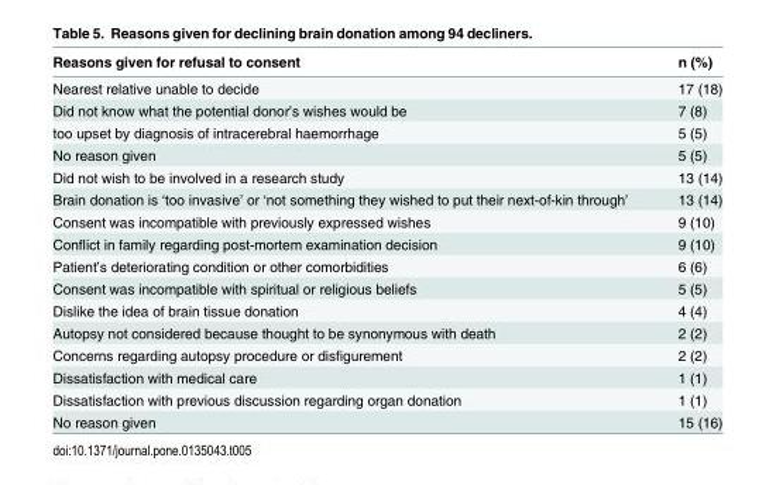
<table><thead><tr><td>Reasons given for refusal to consent</td><td>n (%)</td></tr></thead><tbody><tr><td>Nearest relative unable to decide</td><td>17 (18)</td></tr><tr><td>Did not know what the potential donor’s wishes would be</td><td>7 (8)</td></tr><tr><td>too upset by diagnosis of intracerebral haemorrhage</td><td>5 (5)</td></tr><tr><td>No reason given</td><td>5 (5)</td></tr><tr><td>Did not wish to be involved in a research study</td><td>13 (14)</td></tr><tr><td>Brain donation is ‘too invasive’ or ‘not something they wished to put their next-of-kin through’</td><td>13 (14)</td></tr><tr><td>Consent was incompatible with previously expressed wishes</td><td>9 (10)</td></tr><tr><td>Conflict in family regarding post-mortem examination decision</td><td>9 (10)</td></tr><tr><td>Patient’s deteriorating condition or other comorbidities</td><td>6 (6)</td></tr><tr><td>Consent was incompatible with spiritual or religious beliefs</td><td>5 (5)</td></tr><tr><td>Dislike the idea of brain tissue donation</td><td>4 (4)</td></tr><tr><td>Autopsy not considered because thought to be synonymous with death</td><td>2 (2)</td></tr><tr><td>Concerns regarding autopsy procedure or disfigurement</td><td>2 (2)</td></tr><tr><td>Dissatisfaction with medical care</td><td>1 (1)</td></tr><tr><td>Dissatisfaction with previous discussion regarding organ donation</td><td>1 (1)</td></tr><tr><td>No reason given</td><td>15 (16)</td></tr></tbody></table>